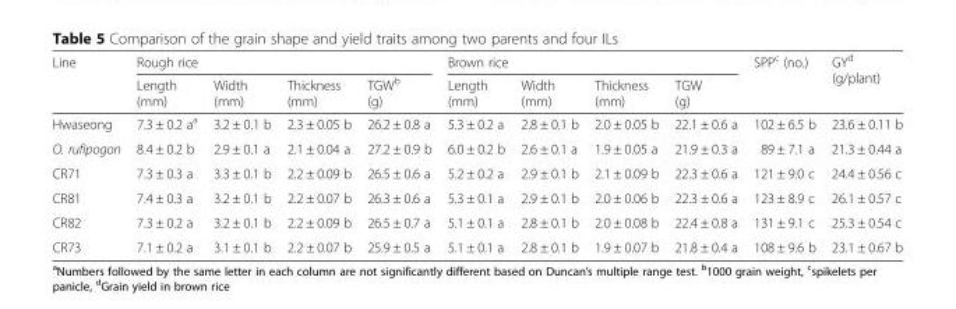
<table><thead><tr><td rowspan="2">Line</td><td colspan="4">Rough rice</td><td colspan="4">Brown rice</td><td rowspan="2">SPP<sup>c</sup> (no.)</td><td rowspan="2">GY<sup>d</sup> (g/plant)</td></tr><tr><td>Length (mm)</td><td>Width (mm)</td><td>Thickness (mm)</td><td>TGW<sup>b</sup> (g)</td><td>Length (mm)</td><td>Width (mm)</td><td>Thickness (mm)</td><td>TGW (g)</td></tr></thead><tbody><tr><td>Hwaseong</td><td>7.3 ± 0.2 a<sup>a</sup></td><td>3.2 ± 0.1 b</td><td>2.3 ± 0.05 b</td><td>26.2 ± 0.8 a</td><td>5.3 ± 0.2 a</td><td>2.8 ± 0.1 b</td><td>2.0 ± 0.05 b</td><td>22.1 ± 0.6 a</td><td>102 ± 6.5 b</td><td>23.6 ± 0.11 b</td></tr><tr><td>O. rufipogon</td><td>8.4 ± 0.2 b</td><td>2.9 ± 0.1 a</td><td>2.1 ± 0.04 a</td><td>27.2 ± 0.9 b</td><td>6.0 ± 0.2 b</td><td>2.6 ± 0.1 a</td><td>1.9 ± 0.05 a</td><td>21.9 ± 0.3 a</td><td>89 ± 7.1 a</td><td>21.3 ± 0.44 a</td></tr><tr><td>CR71</td><td>7.3 ± 0.3 a</td><td>3.3 ± 0.1 b</td><td>2.2 ± 0.09 b</td><td>26.5 ± 0.6 a</td><td>5.2 ± 0.2 a</td><td>2.9 ± 0.1 b</td><td>2.1 ± 0.09 b</td><td>22.3 ± 0.6 a</td><td>121 ± 9.0 c</td><td>24.4 ± 0.56 c</td></tr><tr><td>CR81</td><td>7.4 ± 0.3 a</td><td>3.2 ± 0.1 b</td><td>2.2 ± 0.07 b</td><td>26.3 ± 0.6 a</td><td>5.3 ± 0.1 a</td><td>2.9 ± 0.1 b</td><td>2.0 ± 0.06 b</td><td>22.3 ± 0.6 a</td><td>123 ± 8.9 c</td><td>26.1 ± 0.57 c</td></tr><tr><td>CR82</td><td>7.3 ± 0.2 a</td><td>3.2 ± 0.1 b</td><td>2.2 ± 0.09 b</td><td>26.5 ± 0.7 a</td><td>5.1 ± 0.1 a</td><td>2.8 ± 0.1 b</td><td>2.0 ± 0.08 b</td><td>22.4 ± 0.8 a</td><td>131 ± 9.1 c</td><td>25.3 ± 0.54 c</td></tr><tr><td>CR73</td><td>7.1 ± 0.2 a</td><td>3.1 ± 0.1 b</td><td>2.2 ± 0.07 b</td><td>25.9 ± 0.5 a</td><td>5.1 ± 0.1 a</td><td>2.8 ± 0.1 b</td><td>1.9 ± 0.07 b</td><td>21.8 ± 0.4 a</td><td>108 ± 9.6 b</td><td>23.1 ± 0.67 b</td></tr></tbody></table>